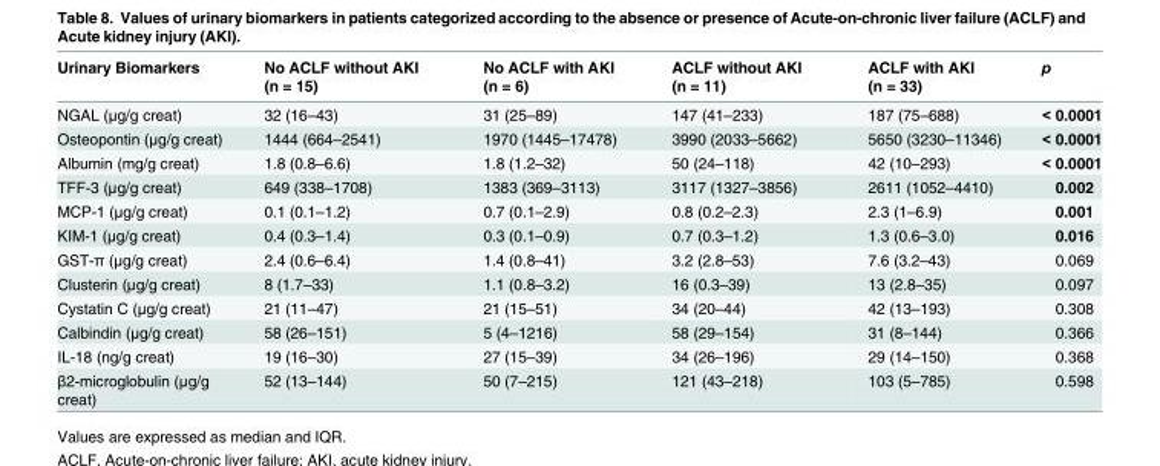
<table><thead><tr><td>Urinary Biomarkers</td><td>No ACLF without AKI (n = 15)</td><td>No ACLF with AKI (n = 6)</td><td>ACLF without AKI (n = 11)</td><td>ACLF with AKI (n = 33)</td><td>p</td></tr></thead><tbody><tr><td>NGAL (μg/g creat)</td><td>32 (16–43)</td><td>31 (25–89)</td><td>147 (41–233)</td><td>187 (75–688)</td><td>&lt; 0.0001</td></tr><tr><td>Osteopontin (μg/g creat)</td><td>1444 (664–2541)</td><td>1970 (1445–17478)</td><td>3990 (2033–5662)</td><td>5650 (3230–11346)</td><td>&lt; 0.0001</td></tr><tr><td>Albumin (mg/g creat)</td><td>1.8 (0.8–6.6)</td><td>1.8 (1.2–32)</td><td>50 (24–118)</td><td>42 (10–293)</td><td>&lt; 0.0001</td></tr><tr><td>TFF-3 (μg/g creat)</td><td>649 (338–1708)</td><td>1383 (369–3113)</td><td>3117 (1327–3856)</td><td>2611 (1052–4410)</td><td>0.002</td></tr><tr><td>MCP-1 (μg/g creat)</td><td>0.1 (0.1–1.2)</td><td>0.7 (0.1–2.9)</td><td>0.8 (0.2–2.3)</td><td>2.3 (1–6.9)</td><td>0.001</td></tr><tr><td>KIM-1 (μg/g creat)</td><td>0.4 (0.3–1.4)</td><td>0.3 (0.1–0.9)</td><td>0.7 (0.3–1.2)</td><td>1.3 (0.6–3.0)</td><td>0.016</td></tr><tr><td>GST-π (μg/g creat)</td><td>2.4 (0.6–6.4)</td><td>1.4 (0.8–41)</td><td>3.2 (2.8–53)</td><td>7.6 (3.2–43)</td><td>0.069</td></tr><tr><td>Clusterin (μg/g creat)</td><td>8 (1.7–33)</td><td>1.1 (0.8–3.2)</td><td>16 (0.3–39)</td><td>13 (2.8–35)</td><td>0.097</td></tr><tr><td>Cystatin C (μg/g creat)</td><td>21 (11–47)</td><td>21 (15–51)</td><td>34 (20–44)</td><td>42 (13–193)</td><td>0.308</td></tr><tr><td>Calbindin (μg/g creat)</td><td>58 (26–151)</td><td>5 (4–1216)</td><td>58 (29–154)</td><td>31 (8–144)</td><td>0.366</td></tr><tr><td>IL-18 (ng/g creat)</td><td>19 (16–30)</td><td>27 (15–39)</td><td>34 (26–196)</td><td>29 (14–150)</td><td>0.368</td></tr><tr><td>β2-microglobulin (μg/g creat)</td><td>52 (13–144)</td><td>50 (7–215)</td><td>121 (43–218)</td><td>103 (5–785)</td><td>0.598</td></tr></tbody></table>